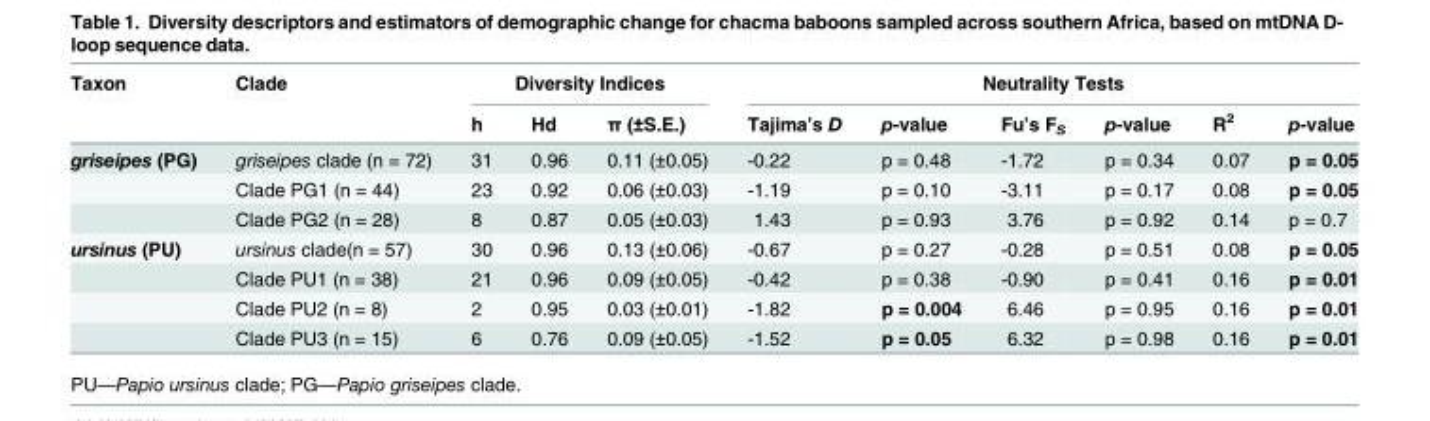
<table><thead><tr><td rowspan="2">Taxon</td><td rowspan="2">Clade</td><td colspan="3">Diversity Indices</td><td colspan="6">Neutrality Tests</td></tr><tr><td>h</td><td>Hd</td><td>π (±S.E.)</td><td>Tajima’s D</td><td>p-value</td><td>Fu’s F<sub>S</sub></td><td>p-value</td><td>R<sup>2</sup></td><td>p-value</td></tr></thead><tbody><tr><td rowspan="3">griseipes (PG)</td><td>griseipes clade (n = 72)</td><td>31</td><td>0.96</td><td>0.11 (±0.05)</td><td>-0.22</td><td>p = 0.48</td><td>-1.72</td><td>p = 0.34</td><td>0.07</td><td>p = 0.05</td></tr><tr><td>Clade PG1 (n = 44)</td><td>23</td><td>0.92</td><td>0.06 (±0.03)</td><td>-1.19</td><td>p = 0.10</td><td>-3.11</td><td>p = 0.17</td><td>0.08</td><td>p = 0.05</td></tr><tr><td>Clade PG2 (n = 28)</td><td>8</td><td>0.87</td><td>0.05 (±0.03)</td><td>1.43</td><td>p = 0.93</td><td>3.76</td><td>p = 0.92</td><td>0.14</td><td>p = 0.7</td></tr><tr><td rowspan="4">ursinus (PU)</td><td>ursinus clade(n = 57)</td><td>30</td><td>0.96</td><td>0.13 (±0.06)</td><td>-0.67</td><td>p = 0.27</td><td>-0.28</td><td>p = 0.51</td><td>0.08</td><td>p = 0.05</td></tr><tr><td>Clade PU1 (n = 38)</td><td>21</td><td>0.96</td><td>0.09 (±0.05)</td><td>-0.42</td><td>p = 0.38</td><td>-0.90</td><td>p = 0.41</td><td>0.16</td><td>p = 0.01</td></tr><tr><td>Clade PU2 (n = 8)</td><td>2</td><td>0.95</td><td>0.03 (±0.01)</td><td>-1.82</td><td>p = 0.004</td><td>6.46</td><td>p = 0.95</td><td>0.16</td><td>p = 0.01</td></tr><tr><td>Clade PU3 (n = 15)</td><td>6</td><td>0.76</td><td>0.09 (±0.05)</td><td>-1.52</td><td>p = 0.05</td><td>6.32</td><td>p = 0.98</td><td>0.16</td><td>p = 0.01</td></tr></tbody></table>